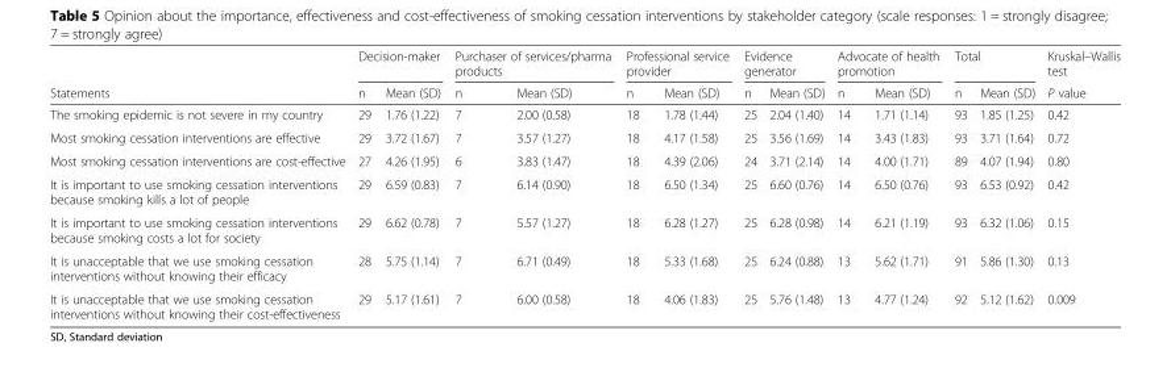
<table><thead><tr><td rowspan="2">Statements</td><td colspan="2">Decision-maker</td><td colspan="2">Purchaser of services/pharma products</td><td colspan="2">Professional service provider</td><td colspan="2">Evidence generator</td><td colspan="2">Advocate of health promotion</td><td colspan="2">Total</td><td rowspan="2">Kruskal–Wallis test P value</td></tr><tr><td>n</td><td>Mean (SD)</td><td>n</td><td>Mean (SD)</td><td>n</td><td>Mean (SD)</td><td>n</td><td>Mean (SD)</td><td>n</td><td>Mean (SD)</td><td>n</td><td>Mean (SD)</td></tr></thead><tbody><tr><td>The smoking epidemic is not severe in my country</td><td>29</td><td>1.76 (1.22)</td><td>7</td><td>2.00 (0.58)</td><td>18</td><td>1.78 (1.44)</td><td>25</td><td>2.04 (1.40)</td><td>14</td><td>1.71 (1.14)</td><td>93</td><td>1.85 (1.25)</td><td>0.42</td></tr><tr><td>Most smoking cessation interventions are effective</td><td>29</td><td>3.72 (1.67)</td><td>7</td><td>3.57 (1.27)</td><td>18</td><td>4.17 (1.58)</td><td>25</td><td>3.56 (1.69)</td><td>14</td><td>3.43 (1.83)</td><td>93</td><td>3.71 (1.64)</td><td>0.72</td></tr><tr><td>Most smoking cessation interventions are cost-effective</td><td>27</td><td>4.26 (1.95)</td><td>6</td><td>3.83 (1.47)</td><td>18</td><td>4.39 (2.06)</td><td>24</td><td>3.71 (2.14)</td><td>14</td><td>4.00 (1.71)</td><td>89</td><td>4.07 (1.94)</td><td>0.80</td></tr><tr><td>It is important to use smoking cessation interventions because smoking kills a lot of people</td><td>29</td><td>6.59 (0.83)</td><td>7</td><td>6.14 (0.90)</td><td>18</td><td>6.50 (1.34)</td><td>25</td><td>6.60 (0.76)</td><td>14</td><td>6.50 (0.76)</td><td>93</td><td>6.53 (0.92)</td><td>0.42</td></tr><tr><td>It is important to use smoking cessation interventions because smoking costs a lot for society</td><td>29</td><td>6.62 (0.78)</td><td>7</td><td>5.57 (1.27)</td><td>18</td><td>6.28 (1.27)</td><td>25</td><td>6.28 (0.98)</td><td>14</td><td>6.21 (1.19)</td><td>93</td><td>6.32 (1.06)</td><td>0.15</td></tr><tr><td>It is unacceptable that we use smoking cessation interventions without knowing their efficacy</td><td>28</td><td>5.75 (1.14)</td><td>7</td><td>6.71 (0.49)</td><td>18</td><td>5.33 (1.68)</td><td>25</td><td>6.24 (0.88)</td><td>13</td><td>5.62 (1.71)</td><td>91</td><td>5.86 (1.30)</td><td>0.13</td></tr><tr><td>It is unacceptable that we use smoking cessation interventions without knowing their cost-effectiveness</td><td>29</td><td>5.17 (1.61)</td><td>7</td><td>6.00 (0.58)</td><td>18</td><td>4.06 (1.83)</td><td>25</td><td>5.76 (1.48)</td><td>13</td><td>4.77 (1.24)</td><td>92</td><td>5.12 (1.62)</td><td>0.009</td></tr></tbody></table>